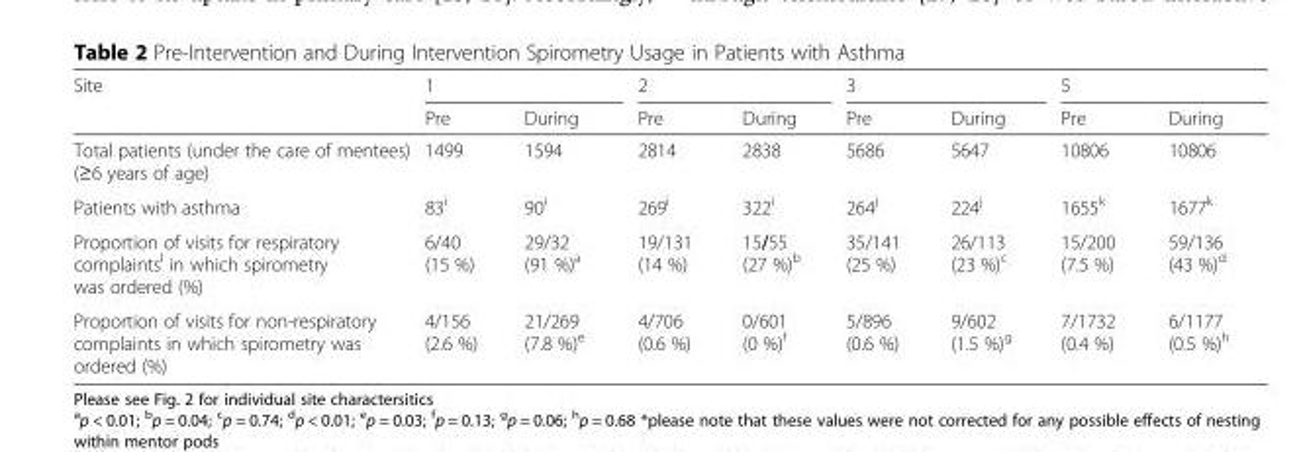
<table><thead><tr><td rowspan="2">Site</td><td colspan="2">1</td><td colspan="2">2</td><td colspan="2">3</td><td colspan="2">5</td></tr><tr><td>Pre</td><td>During</td><td>Pre</td><td>During</td><td>Pre</td><td>During</td><td>Pre</td><td>During</td></tr></thead><tbody><tr><td>Total patients (under the care of mentees) (≥6 years of age)</td><td>1499</td><td>1594</td><td>2814</td><td>2838</td><td>5686</td><td>5647</td><td>10806</td><td>10806</td></tr><tr><td>Patients with asthma</td><td>83<sup>i</sup></td><td>90<sup>i</sup></td><td>269<sup>i</sup></td><td>322<sup>i</sup></td><td>264<sup>j</sup></td><td>224<sup>j</sup></td><td>1655<sup>k</sup></td><td>1677<sup>k</sup></td></tr><tr><td>Proportion of visits for respiratory complaints<sup>l</sup> in which spirometry was ordered (%)</td><td>6/40 (15 %)</td><td>29/32 (91 %)<sup>a</sup></td><td>19/131 (14 %)</td><td>15/55 (27 %)<sup>b</sup></td><td>35/141 (25 %)</td><td>26/113 (23 %)<sup>c</sup></td><td>15/200 (7.5 %)</td><td>59/136 (43 %)<sup>d</sup></td></tr><tr><td>Proportion of visits for non-respiratory complaints in which spirometry was ordered (%)</td><td>4/156 (2.6 %)</td><td>21/269 (7.8 %)<sup>e</sup></td><td>4/706 (0.6 %)</td><td>0/601 (0 %)<sup>f</sup></td><td>5/896 (0.6 %)</td><td>9/602 (1.5 %)<sup>g</sup></td><td>7/1732 (0.4 %)</td><td>6/1177 (0.5 %)<sup>h</sup></td></tr></tbody></table>